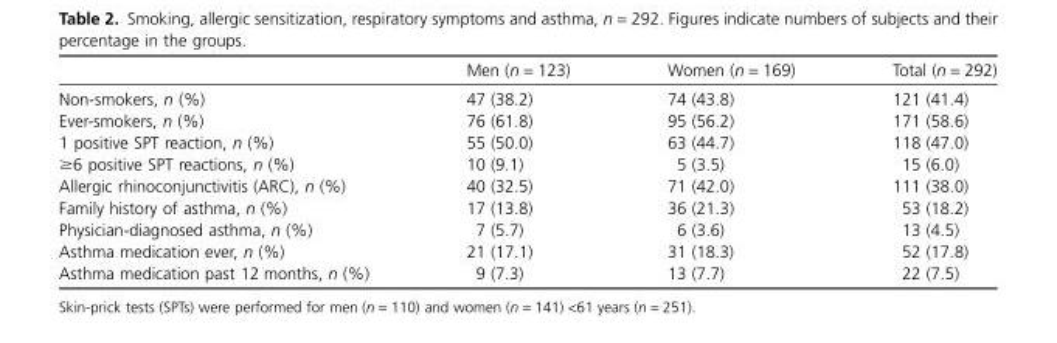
<table><thead><tr><td></td><td>Men (n = 123)</td><td>Women (n = 169)</td><td>Total (n = 292)</td></tr></thead><tbody><tr><td>Non-smokers, n (%)</td><td>47 (38.2)</td><td>74 (43.8)</td><td>121 (41.4)</td></tr><tr><td>Ever-smokers, n (%)</td><td>76 (61.8)</td><td>95 (56.2)</td><td>171 (58.6)</td></tr><tr><td>1 positive SPT reaction, n (%)</td><td>55 (50.0)</td><td>63 (44.7)</td><td>118 (47.0)</td></tr><tr><td>≥6 positive SPT reactions, n (%)</td><td>10 (9.1)</td><td>5 (3.5)</td><td>15 (6.0)</td></tr><tr><td>Allergic rhinoconjunctivitis (ARC), n (%)</td><td>40 (32.5)</td><td>71 (42.0)</td><td>111 (38.0)</td></tr><tr><td>Family history of asthma, n (%)</td><td>17 (13.8)</td><td>36 (21.3)</td><td>53 (18.2)</td></tr><tr><td>Physician-diagnosed asthma, n (%)</td><td>7 (5.7)</td><td>6 (3.6)</td><td>13 (4.5)</td></tr><tr><td>Asthma medication ever, n (%)</td><td>21 (17.1)</td><td>31 (18.3)</td><td>52 (17.8)</td></tr><tr><td>Asthma medication past 12 months, n (%)</td><td>9 (7.3)</td><td>13 (7.7)</td><td>22 (7.5)</td></tr></tbody></table>